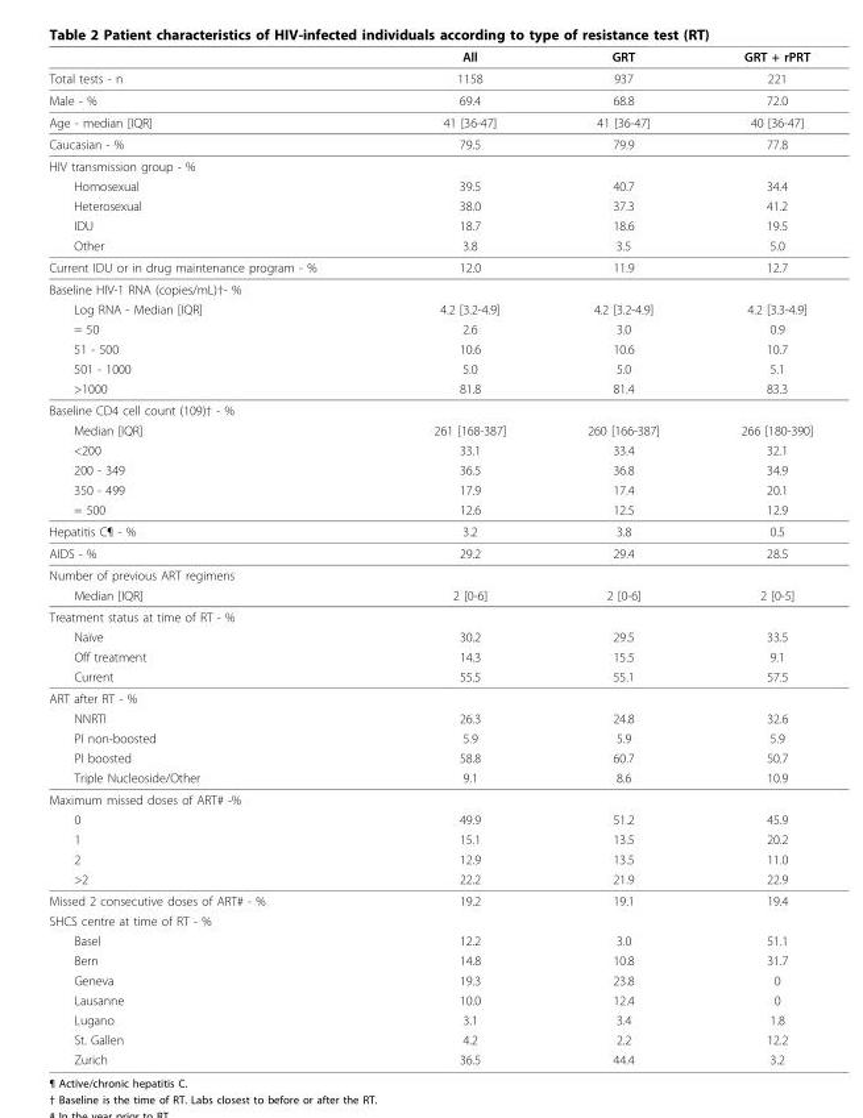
<table><thead><tr><td></td><td>All</td><td>GRT</td><td>GRT + rPRT</td></tr></thead><tbody><tr><td>Total tests - n</td><td>1158</td><td>937</td><td>221</td></tr><tr><td>Male - %</td><td>69.4</td><td>68.8</td><td>72.0</td></tr><tr><td>Age - median [IQR]</td><td>41 [36-47]</td><td>41 [36-47]</td><td>40 [36-47]</td></tr><tr><td>Caucasian - %</td><td>79.5</td><td>79.9</td><td>77.8</td></tr><tr><td colspan="4">HIV transmission group - %</td></tr><tr><td>Homosexual</td><td>39.5</td><td>40.7</td><td>34.4</td></tr><tr><td>Heterosexual</td><td>38.0</td><td>37.3</td><td>41.2</td></tr><tr><td>IDU</td><td>18.7</td><td>18.6</td><td>19.5</td></tr><tr><td>Other</td><td>3.8</td><td>3.5</td><td>5.0</td></tr><tr><td>Current IDU or in drug maintenance program - %</td><td>12.0</td><td>11.9</td><td>12.7</td></tr><tr><td colspan="4">Baseline HIV-1 RNA (copies/mL)†- %</td></tr><tr><td>Log RNA - Median [IQR]</td><td>4.2 [3.2-4.9]</td><td>4.2 [3.2-4.9]</td><td>4.2 [3.3-4.9]</td></tr><tr><td>= 50</td><td>2.6</td><td>3.0</td><td>0.9</td></tr><tr><td>51 - 500</td><td>10.6</td><td>10.6</td><td>10.7</td></tr><tr><td>501 - 1000</td><td>5.0</td><td>5.0</td><td>5.1</td></tr><tr><td>&gt;1000</td><td>81.8</td><td>81.4</td><td>83.3</td></tr><tr><td colspan="4">Baseline CD4 cell count (109)† - %</td></tr><tr><td>Median [IQR]</td><td>261 [168-387]</td><td>260 [166-387]</td><td>266 [180-390]</td></tr><tr><td>&lt;200</td><td>33.1</td><td>33.4</td><td>32.1</td></tr><tr><td>200 - 349</td><td>36.5</td><td>36.8</td><td>34.9</td></tr><tr><td>350 - 499</td><td>17.9</td><td>17.4</td><td>20.1</td></tr><tr><td>= 500</td><td>12.6</td><td>12.5</td><td>12.9</td></tr><tr><td>Hepatitis C¶ - %</td><td>3.2</td><td>3.8</td><td>0.5</td></tr><tr><td>AIDS - %</td><td>29.2</td><td>29.4</td><td>28.5</td></tr><tr><td colspan="4">Number of previous ART regimens</td></tr><tr><td>Median [IQR]</td><td>2 [0-6]</td><td>2 [0-6]</td><td>2 [0-5]</td></tr><tr><td colspan="4">Treatment status at time of RT - %</td></tr><tr><td>Naïve</td><td>30.2</td><td>29.5</td><td>33.5</td></tr><tr><td>Off treatment</td><td>14.3</td><td>15.5</td><td>9.1</td></tr><tr><td>Current</td><td>55.5</td><td>55.1</td><td>57.5</td></tr><tr><td colspan="4">ART after RT - %</td></tr><tr><td>NNRTI</td><td>26.3</td><td>24.8</td><td>32.6</td></tr><tr><td>PI non-boosted</td><td>5.9</td><td>5.9</td><td>5.9</td></tr><tr><td>PI boosted</td><td>58.8</td><td>60.7</td><td>50.7</td></tr><tr><td>Triple Nucleoside/Other</td><td>9.1</td><td>8.6</td><td>10.9</td></tr><tr><td colspan="4">Maximum missed doses of ART# -%</td></tr><tr><td>0</td><td>49.9</td><td>51.2</td><td>45.9</td></tr><tr><td>1</td><td>15.1</td><td>13.5</td><td>20.2</td></tr><tr><td>2</td><td>12.9</td><td>13.5</td><td>11.0</td></tr><tr><td>&gt;2</td><td>22.2</td><td>21.9</td><td>22.9</td></tr><tr><td>Missed 2 consecutive doses of ART# - %</td><td>19.2</td><td>19.1</td><td>19.4</td></tr><tr><td colspan="4">SHCS centre at time of RT - %</td></tr><tr><td>Basel</td><td>12.2</td><td>3.0</td><td>51.1</td></tr><tr><td>Bern</td><td>14.8</td><td>10.8</td><td>31.7</td></tr><tr><td>Geneva</td><td>19.3</td><td>23.8</td><td>0</td></tr><tr><td>Lausanne</td><td>10.0</td><td>12.4</td><td>0</td></tr><tr><td>Lugano</td><td>3.1</td><td>3.4</td><td>1.8</td></tr><tr><td>St. Gallen</td><td>4.2</td><td>2.2</td><td>12.2</td></tr><tr><td>Zurich</td><td>36.5</td><td>44.4</td><td>3.2</td></tr></tbody></table>